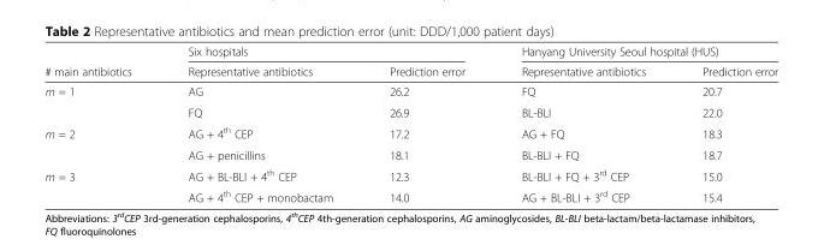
<table><thead><tr><td rowspan="2"># main antibiotics</td><td colspan="2">Six hospitals</td><td colspan="2">Hanyang University Seoul hospital (HUS)</td></tr><tr><td>Representative antibiotics</td><td>Prediction error</td><td>Representative antibiotics</td><td>Prediction error</td></tr></thead><tbody><tr><td rowspan="2">m = 1</td><td>AG</td><td>26.2</td><td>FQ</td><td>20.7</td></tr><tr><td>FQ</td><td>26.9</td><td>BL-BLI</td><td>22.0</td></tr><tr><td rowspan="2">m = 2</td><td>AG + 4<sup>th</sup> CEP</td><td>17.2</td><td>AG + FQ</td><td>18.3</td></tr><tr><td>AG + penicillins</td><td>18.1</td><td>BL-BLI + FQ</td><td>18.7</td></tr><tr><td rowspan="2">m = 3</td><td>AG + BL-BLI + 4<sup>th</sup> CEP</td><td>12.3</td><td>BL-BLI + FQ + 3<sup>rd</sup> CEP</td><td>15.0</td></tr><tr><td>AG + 4<sup>th</sup> CEP + monobactam</td><td>14.0</td><td>AG + BL-BLI + 3<sup>rd</sup> CEP</td><td>15.4</td></tr></tbody></table>